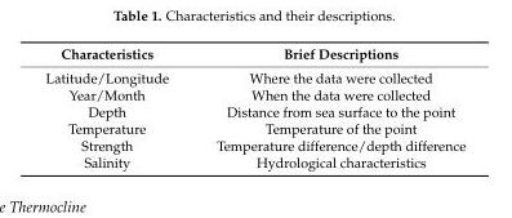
<table><thead><tr><td>Characteristics</td><td>Brief Descriptions</td></tr></thead><tbody><tr><td>Latitude/Longitude</td><td>Where the data were collected</td></tr><tr><td>Year/Month</td><td>When the data were collected</td></tr><tr><td>Depth</td><td>Distance from sea surface to the point</td></tr><tr><td>Temperature</td><td>Temperature of the point</td></tr><tr><td>Strength</td><td>Temperature difference/depth difference</td></tr><tr><td>Salinity</td><td>Hydrological characteristics</td></tr></tbody></table>